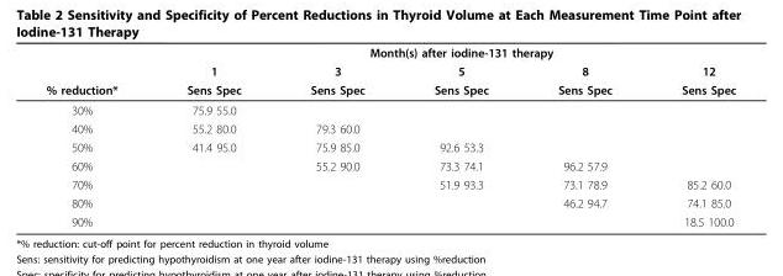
<table><thead><tr><td rowspan="3">% reduction*</td><td colspan="5">Month(s) after iodine-131 therapy</td></tr><tr><td rowspan="2">1 Sens Spec</td><td rowspan="2">3 Sens Spec</td><td rowspan="2">5 Sens Spec</td><td rowspan="2">8 Sens Spec</td><td rowspan="2">12 Sens Spec</td></tr><tr></tr></thead><tbody><tr><td>30%</td><td>75.9 55.0</td><td></td><td></td><td></td><td></td></tr><tr><td>40%</td><td>55.2 80.0</td><td>79.3 60.0</td><td></td><td></td><td></td></tr><tr><td>50%</td><td>41.4 95.0</td><td>75.9 85.0</td><td>92.6 53.3</td><td></td><td></td></tr><tr><td>60%</td><td></td><td>55.2 90.0</td><td>73.3 74.1</td><td>96.2 57.9</td><td></td></tr><tr><td>70%</td><td></td><td></td><td>51.9 93.3</td><td>73.1 78.9</td><td>85.2 60.0</td></tr><tr><td>80%</td><td></td><td></td><td></td><td>46.2 94.7</td><td>74.1 85.0</td></tr><tr><td>90%</td><td></td><td></td><td></td><td></td><td>18.5 100.0</td></tr></tbody></table>